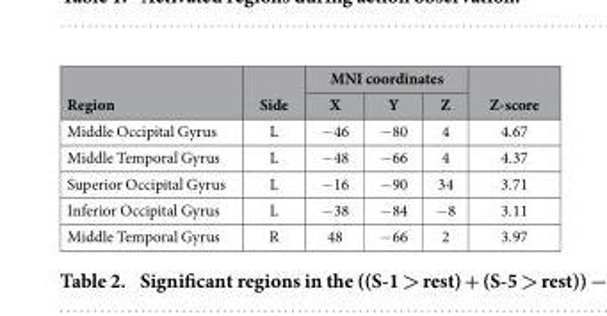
<table><thead><tr><td rowspan="2">Region</td><td rowspan="2">Side</td><td colspan="3">MNI coordinates</td><td rowspan="2">Z-score</td></tr><tr><td>X</td><td>Y</td><td>Z</td></tr></thead><tbody><tr><td>Middle Occipital Gyrus</td><td>L</td><td>− 46</td><td>− 80</td><td>4</td><td>4.67</td></tr><tr><td>Middle Temporal Gyrus</td><td>L</td><td>− 48</td><td>− 66</td><td>4</td><td>4.37</td></tr><tr><td>Superior Occipital Gyrus</td><td>L</td><td>− 16</td><td>− 90</td><td>34</td><td>3.71</td></tr><tr><td>Inferior Occipital Gyrus</td><td>L</td><td>− 38</td><td>− 84</td><td>− 8</td><td>3.11</td></tr><tr><td>Middle Temporal Gyrus</td><td>R</td><td>48</td><td>− 66</td><td>2</td><td>3.97</td></tr></tbody></table>